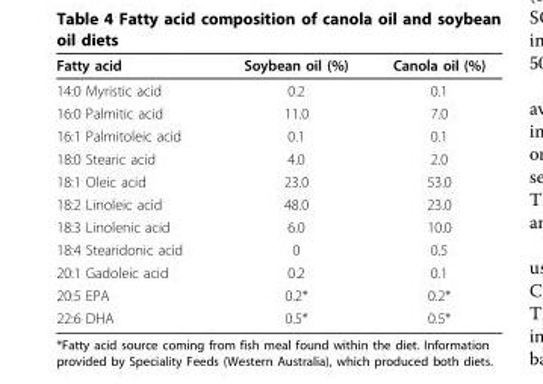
<table><thead><tr><td>Fatty acid</td><td>Soybean oil (%)</td><td>Canola oil (%)</td></tr></thead><tbody><tr><td>14:0 Myristic acid</td><td>0.2</td><td>0.1</td></tr><tr><td>16:0 Palmitic acid</td><td>11.0</td><td>7.0</td></tr><tr><td>16:1 Palmitoleic acid</td><td>0.1</td><td>0.1</td></tr><tr><td>18:0 Stearic acid</td><td>4.0</td><td>2.0</td></tr><tr><td>18:1 Oleic acid</td><td>23.0</td><td>53.0</td></tr><tr><td>18:2 Linoleic acid</td><td>48.0</td><td>23.0</td></tr><tr><td>18:3 Linolenic acid</td><td>6.0</td><td>10.0</td></tr><tr><td>18:4 Stearidonic acid</td><td>0</td><td>0.5</td></tr><tr><td>20:1 Gadoleic acid</td><td>0.2</td><td>0.1</td></tr><tr><td>20:5 EPA</td><td>0.2*</td><td>0.2*</td></tr><tr><td>22:6 DHA</td><td>0.5*</td><td>0.5*</td></tr></tbody></table>